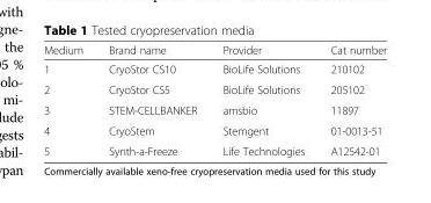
<table><thead><tr><td>Medium</td><td>Brand name</td><td>Provider</td><td>Cat number</td></tr></thead><tbody><tr><td>1</td><td>CryoStor CS10</td><td>BioLife Solutions</td><td>210102</td></tr><tr><td>2</td><td>CryoStor CS5</td><td>BioLife Solutions</td><td>205102</td></tr><tr><td>3</td><td>STEM-CELLBANKER</td><td>amsbio</td><td>11897</td></tr><tr><td>4</td><td>CryoStem</td><td>Stemgent</td><td>01-0013-51</td></tr><tr><td>5</td><td>Synth-a-Freeze</td><td>Life Technologies</td><td>A12542-01</td></tr></tbody></table>